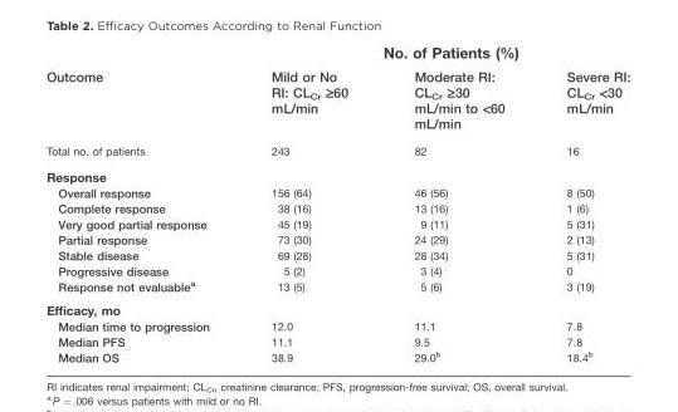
<table><thead><tr><td rowspan="2">Outcome</td><td colspan="3">No. of Patients (%)</td></tr><tr><td>Mild or No RI: CLCr ‡60 mL/min</td><td>Moderate RI: CLCr ‡30 mL/min to &lt;60 mL/min</td><td>Severe RI: CL<sub>Cr</sub> &lt;30 mL/min</td></tr></thead><tbody><tr><td>Total no. of patients</td><td>243</td><td>82</td><td>16</td></tr><tr><td colspan="4">Response</td></tr><tr><td>Overall response</td><td>156 (64)</td><td>46 (56)</td><td>8 (50)</td></tr><tr><td>Complete response</td><td>38 (16)</td><td>13 (16)</td><td>1 (6)</td></tr><tr><td>Very good partial response</td><td>45 (19)</td><td>9 (11)</td><td>5 (31)</td></tr><tr><td>Partial response</td><td>73 (30)</td><td>24 (29)</td><td>2 (13)</td></tr><tr><td>Stable disease</td><td>69 (28)</td><td>28 (34)</td><td>5 (31)</td></tr><tr><td>Progressive disease</td><td>5 (2)</td><td>3 (4)</td><td>0</td></tr><tr><td>Response not evaluable<sup>a</sup></td><td>13 (5)</td><td>5 (6)</td><td>3 (19)</td></tr><tr><td colspan="4">Efficacy, mo</td></tr><tr><td>Median time to progression</td><td>12.0</td><td>11.1</td><td>7.8</td></tr><tr><td>Median PFS</td><td>11.1</td><td>9.5</td><td>7.8</td></tr><tr><td>Median OS</td><td>38.9</td><td>29.0<sup>b</sup></td><td>18.4<sup>b</sup></td></tr></tbody></table>